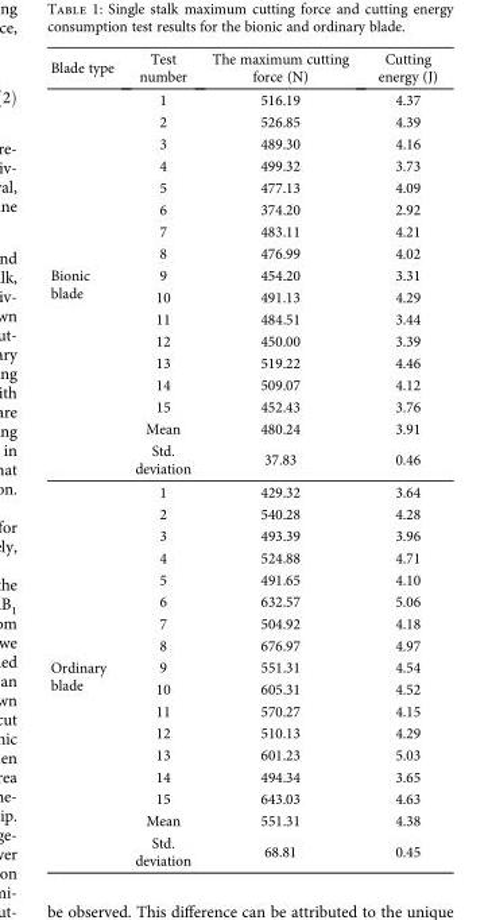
<table><thead><tr><td>Blade type</td><td>Test number</td><td>The maximum cutting force (N)</td><td>Cutting energy (J)</td></tr></thead><tbody><tr><td rowspan="17">Bionic blade</td><td>1</td><td>516.19</td><td>4.37</td></tr><tr><td>2</td><td>526.85</td><td>4.39</td></tr><tr><td>3</td><td>489.30</td><td>4.16</td></tr><tr><td>4</td><td>499.32</td><td>3.73</td></tr><tr><td>5</td><td>477.13</td><td>4.09</td></tr><tr><td>6</td><td>374.20</td><td>2.92</td></tr><tr><td>7</td><td>483.11</td><td>4.21</td></tr><tr><td>8</td><td>476.99</td><td>4.02</td></tr><tr><td>9</td><td>454.20</td><td>3.31</td></tr><tr><td>10</td><td>491.13</td><td>4.29</td></tr><tr><td>11</td><td>484.51</td><td>3.44</td></tr><tr><td>12</td><td>450.00</td><td>3.39</td></tr><tr><td>13</td><td>519.22</td><td>4.46</td></tr><tr><td>14</td><td>509.07</td><td>4.12</td></tr><tr><td>15</td><td>452.43</td><td>3.76</td></tr><tr><td>Mean</td><td>480.24</td><td>3.91</td></tr><tr><td>Std. deviation</td><td>37.83</td><td>0.46</td></tr><tr><td rowspan="17">Ordinary blade</td><td>1</td><td>429.32</td><td>3.64</td></tr><tr><td>2</td><td>540.28</td><td>4.28</td></tr><tr><td>3</td><td>493.39</td><td>3.96</td></tr><tr><td>4</td><td>524.88</td><td>4.71</td></tr><tr><td>5</td><td>491.65</td><td>4.10</td></tr><tr><td>6</td><td>632.57</td><td>5.06</td></tr><tr><td>7</td><td>504.92</td><td>4.18</td></tr><tr><td>8</td><td>676.97</td><td>4.97</td></tr><tr><td>9</td><td>551.31</td><td>4.54</td></tr><tr><td>10</td><td>605.31</td><td>4.52</td></tr><tr><td>11</td><td>570.27</td><td>4.15</td></tr><tr><td>12</td><td>510.13</td><td>4.29</td></tr><tr><td>13</td><td>601.23</td><td>5.03</td></tr><tr><td>14</td><td>494.34</td><td>3.65</td></tr><tr><td>15</td><td>643.03</td><td>4.63</td></tr><tr><td>Mean</td><td>551.31</td><td>4.38</td></tr><tr><td>Std. deviation</td><td>68.81</td><td>0.45</td></tr></tbody></table>